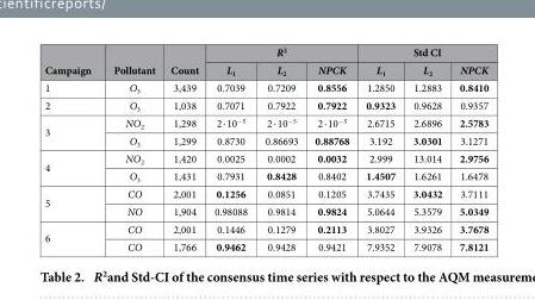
<table><thead><tr><td rowspan="2">Campaign</td><td rowspan="2">Pollutant</td><td rowspan="2">Count</td><td colspan="3">R<sup>2</sup></td><td colspan="3">Std CI</td></tr><tr><td>L<sub>1</sub></td><td>L<sub>2</sub></td><td>NPCK</td><td>L<sub>1</sub></td><td>L<sub>2</sub></td><td>NPCK</td></tr></thead><tbody><tr><td>1</td><td>O<sub>3</sub></td><td>3,439</td><td>0.7039</td><td>0.7209</td><td>0.8556</td><td>1.2850</td><td>1.2883</td><td>0.8410</td></tr><tr><td>2</td><td>O<sub>3</sub></td><td>1,038</td><td>0.7071</td><td>0.7922</td><td>0.7922</td><td>0.9323</td><td>0.9628</td><td>0.9357</td></tr><tr><td rowspan="2">3</td><td>NO<sub>2</sub></td><td>1,298</td><td>2 · 10<sup>−5</sup></td><td>2 · 10<sup>−5</sup></td><td>2 · 10<sup>−5</sup></td><td>2.6715</td><td>2.6896</td><td>2.5783</td></tr><tr><td>O<sub>3</sub></td><td>1,299</td><td>0.8730</td><td>0.86693</td><td>0.88768</td><td>3.192</td><td>3.0301</td><td>3.1271</td></tr><tr><td rowspan="2">4</td><td>NO<sub>2</sub></td><td>1,420</td><td>0.0025</td><td>0.0002</td><td>0.0032</td><td>2.999</td><td>13.014</td><td>2.9756</td></tr><tr><td>O<sub>3</sub></td><td>1,431</td><td>0.7931</td><td>0.8428</td><td>0.8402</td><td>1.4507</td><td>1.6261</td><td>1.6478</td></tr><tr><td rowspan="2">5</td><td>CO</td><td>2,001</td><td>0.1256</td><td>0.0851</td><td>0.1205</td><td>3.7435</td><td>3.0432</td><td>3.7111</td></tr><tr><td>NO</td><td>1,904</td><td>0.98088</td><td>0.9814</td><td>0.9824</td><td>5.0644</td><td>5.3579</td><td>5.0349</td></tr><tr><td rowspan="2">6</td><td>CO</td><td>2,001</td><td>0.1446</td><td>0.1279</td><td>0.2113</td><td>3.8027</td><td>3.9326</td><td>3.7678</td></tr><tr><td>CO</td><td>1,766</td><td>0.9462</td><td>0.9428</td><td>0.9421</td><td>7.9352</td><td>7.9078</td><td>7.8121</td></tr></tbody></table>